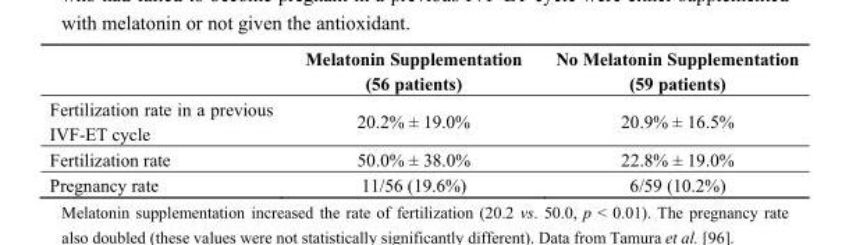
<table><thead><tr><td></td><td>Melatonin Supplementation (56 patients)</td><td>No Melatonin Supplementation (59 patients)</td></tr></thead><tbody><tr><td>Fertilization rate in a previous IVF-ET cycle</td><td>20.2% ± 19.0%</td><td>20.9% ± 16.5%</td></tr><tr><td>Fertilization rate</td><td>50.0% ± 38.0%</td><td>22.8% ± 19.0%</td></tr><tr><td>Pregnancy rate</td><td>11/56 (19.6%)</td><td>6/59 (10.2%)</td></tr></tbody></table>